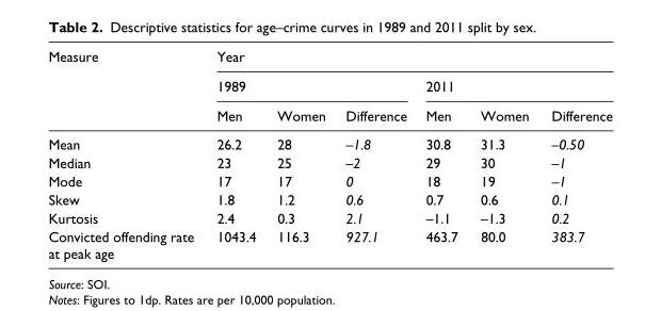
<table><thead><tr><td rowspan="3">Measure</td><td colspan="6">Year</td></tr><tr><td colspan="3">1989</td><td colspan="3">2011</td></tr><tr><td>Men</td><td>Women</td><td>Difference</td><td>Men</td><td>Women</td><td>Difference</td></tr></thead><tbody><tr><td>Mean</td><td>26.2</td><td>28</td><td>–1.8</td><td>30.8</td><td>31.3</td><td>–0.50</td></tr><tr><td>Median</td><td>23</td><td>25</td><td>–2</td><td>29</td><td>30</td><td>–1</td></tr><tr><td>Mode</td><td>17</td><td>17</td><td>0</td><td>18</td><td>19</td><td>–1</td></tr><tr><td>Skew</td><td>1.8</td><td>1.2</td><td>0.6</td><td>0.7</td><td>0.6</td><td>0.1</td></tr><tr><td>Kurtosis</td><td>2.4</td><td>0.3</td><td>2.1</td><td>–1.1</td><td>–1.3</td><td>0.2</td></tr><tr><td>Convicted offending rate at peak age</td><td>1043.4</td><td>116.3</td><td>927.1</td><td>463.7</td><td>80.0</td><td>383.7</td></tr></tbody></table>